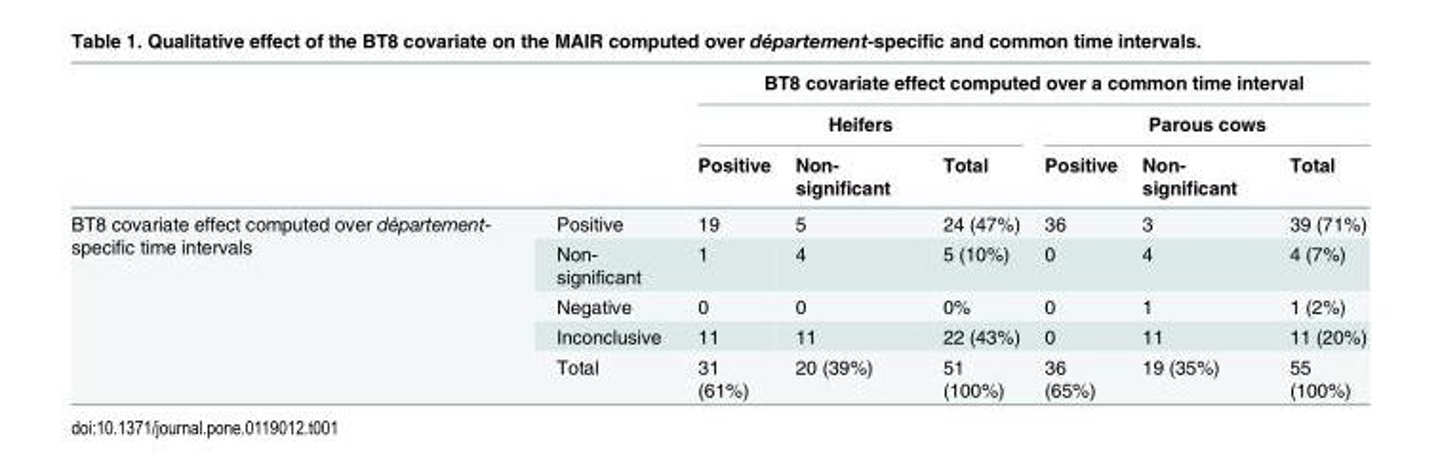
<table><thead><tr><td rowspan="3"></td><td rowspan="3"></td><td colspan="6">BT8 covariate effect computed over a common time interval</td></tr><tr><td colspan="3">Heifers</td><td colspan="3">Parous cows</td></tr><tr><td>Positive</td><td>Non- significant</td><td>Total</td><td>Positive</td><td>Non- significant</td><td>Total</td></tr></thead><tbody><tr><td rowspan="5">BT8 covariate effect computed over département- specific time intervals</td><td>Positive</td><td>19</td><td>5</td><td>24 (47%)</td><td>36</td><td>3</td><td>39 (71%)</td></tr><tr><td>Non- significant</td><td>1</td><td>4</td><td>5 (10%)</td><td>0</td><td>4</td><td>4 (7%)</td></tr><tr><td>Negative</td><td>0</td><td>0</td><td>0%</td><td>0</td><td>1</td><td>1 (2%)</td></tr><tr><td>Inconclusive</td><td>11</td><td>11</td><td>22 (43%)</td><td>0</td><td>11</td><td>11 (20%)</td></tr><tr><td>Total</td><td>31 (61%)</td><td>20 (39%)</td><td>51 (100%)</td><td>36 (65%)</td><td>19 (35%)</td><td>55 (100%)</td></tr></tbody></table>